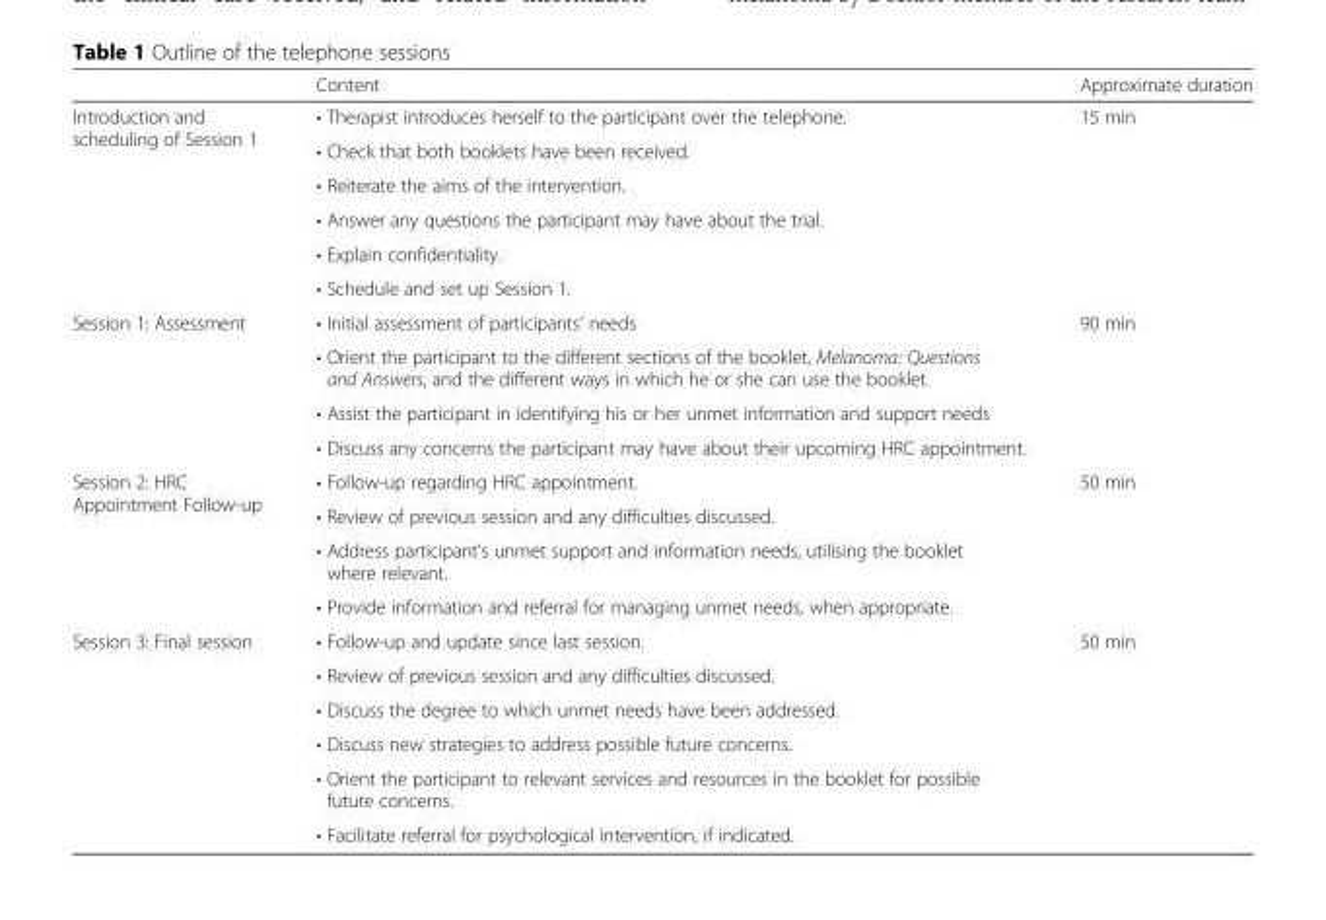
<table><thead><tr><td></td><td>Content</td><td>Approximate duration</td></tr></thead><tbody><tr><td rowspan="6">Introduction and scheduling of Session 1</td><td>• Therapist introduces herself to the participant over the telephone.</td><td rowspan="6">15 min</td></tr><tr><td>• Check that both booklets have been received.</td></tr><tr><td>• Reiterate the aims of the intervention.</td></tr><tr><td>• Answer any questions the participant may have about the trial.</td></tr><tr><td>• Explain confidentiality.</td></tr><tr><td>• Schedule and set up Session 1.</td></tr><tr><td rowspan="4">Session 1: Assessment</td><td>• Initial assessment of participants’ needs</td><td rowspan="4">90 min</td></tr><tr><td>• Orient the participant to the different sections of the booklet, Melanoma: Questions and Answers, and the different ways in which he or she can use the booklet.</td></tr><tr><td>• Assist the participant in identifying his or her unmet information and support needs</td></tr><tr><td>• Discuss any concerns the participant may have about their upcoming HRC appointment.</td></tr><tr><td rowspan="4">Session 2: HRC Appointment Follow-up</td><td>• Follow-up regarding HRC appointment.</td><td rowspan="4">50 min</td></tr><tr><td>• Review of previous session and any difficulties discussed.</td></tr><tr><td>• Address participant’s unmet support and information needs, utilising the booklet where relevant.</td></tr><tr><td>• Provide information and referral for managing unmet needs, when appropriate.</td></tr><tr><td rowspan="6">Session 3: Final session</td><td>• Follow-up and update since last session.</td><td rowspan="6">50 min</td></tr><tr><td>• Review of previous session and any difficulties discussed.</td></tr><tr><td>• Discuss the degree to which unmet needs have been addressed.</td></tr><tr><td>• Discuss new strategies to address possible future concerns.</td></tr><tr><td>• Orient the participant to relevant services and resources in the booklet for possible future concerns.</td></tr><tr><td>• Facilitate referral for psychological intervention, if indicated.</td></tr></tbody></table>